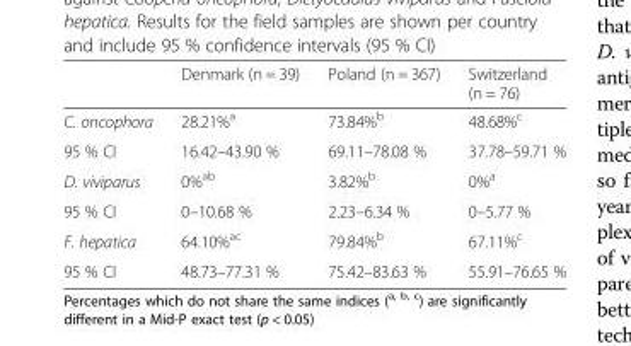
<table><thead><tr><td></td><td>Denmark (n = 39)</td><td>Poland (n = 367)</td><td>Switzerland (n = 76)</td></tr></thead><tbody><tr><td>C. oncophora</td><td>28.21%<sup>a</sup></td><td>73.84%<sup>b</sup></td><td>48.68%<sup>c</sup></td></tr><tr><td>95 % CI</td><td>16.42–43.90 %</td><td>69.11–78.08 %</td><td>37.78–59.71 %</td></tr><tr><td>D. viviparus</td><td>0%<sup>ab</sup></td><td>3.82%<sup>b</sup></td><td>0%<sup>a</sup></td></tr><tr><td>95 % CI</td><td>0–10.68 %</td><td>2.23–6.34 %</td><td>0–5.77 %</td></tr><tr><td>F. hepatica</td><td>64.10%<sup>ac</sup></td><td>79.84%<sup>b</sup></td><td>67.11%<sup>c</sup></td></tr><tr><td>95 % CI</td><td>48.73–77.31 %</td><td>75.42–83.63 %</td><td>55.91–76.65 %</td></tr></tbody></table>